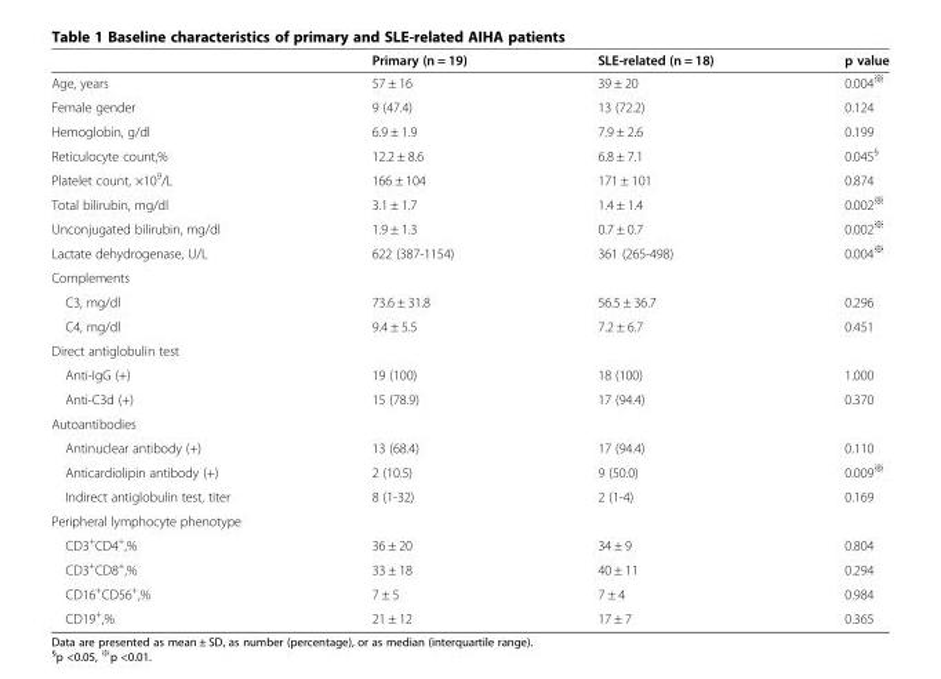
<table><thead><tr><td></td><td>Primary (n = 19)</td><td>SLE-related (n = 18)</td><td>p value</td></tr></thead><tbody><tr><td>Age, years</td><td>57 ± 16</td><td>39 ± 20</td><td>0.004<sup>※</sup></td></tr><tr><td>Female gender</td><td>9 (47.4)</td><td>13 (72.2)</td><td>0.124</td></tr><tr><td>Hemoglobin, g/dl</td><td>6.9 ± 1.9</td><td>7.9 ± 2.6</td><td>0.199</td></tr><tr><td>Reticulocyte count,%</td><td>12.2 ± 8.6</td><td>6.8 ± 7.1</td><td>0.045<sup>§</sup></td></tr><tr><td>Platelet count, ×10<sup>9</sup>/L</td><td>166 ± 104</td><td>171 ± 101</td><td>0.874</td></tr><tr><td>Total bilirubin, mg/dl</td><td>3.1 ± 1.7</td><td>1.4 ± 1.4</td><td>0.002<sup>※</sup></td></tr><tr><td>Unconjugated bilirubin, mg/dl</td><td>1.9 ± 1.3</td><td>0.7 ± 0.7</td><td>0.002<sup>※</sup></td></tr><tr><td>Lactate dehydrogenase, U/L</td><td>622 (387-1154)</td><td>361 (265-498)</td><td>0.004<sup>※</sup></td></tr><tr><td colspan="4">Complements</td></tr><tr><td>C3, mg/dl</td><td>73.6 ± 31.8</td><td>56.5 ± 36.7</td><td>0.296</td></tr><tr><td>C4, mg/dl</td><td>9.4 ± 5.5</td><td>7.2 ± 6.7</td><td>0.451</td></tr><tr><td colspan="4">Direct antiglobulin test</td></tr><tr><td>Anti-IgG (+)</td><td>19 (100)</td><td>18 (100)</td><td>1.000</td></tr><tr><td>Anti-C3d (+)</td><td>15 (78.9)</td><td>17 (94.4)</td><td>0.370</td></tr><tr><td colspan="4">Autoantibodies</td></tr><tr><td>Antinuclear antibody (+)</td><td>13 (68.4)</td><td>17 (94.4)</td><td>0.110</td></tr><tr><td>Anticardiolipin antibody (+)</td><td>2 (10.5)</td><td>9 (50.0)</td><td>0.009<sup>※</sup></td></tr><tr><td>Indirect antiglobulin test, titer</td><td>8 (1-32)</td><td>2 (1-4)</td><td>0.169</td></tr><tr><td colspan="4">Peripheral lymphocyte phenotype</td></tr><tr><td>CD3<sup>+</sup>CD4<sup>+</sup>,%</td><td>36 ± 20</td><td>34 ± 9</td><td>0.804</td></tr><tr><td>CD3<sup>+</sup>CD8<sup>+</sup>,%</td><td>33 ± 18</td><td>40 ± 11</td><td>0.294</td></tr><tr><td>CD16<sup>+</sup>CD56<sup>+</sup>,%</td><td>7 ± 5</td><td>7 ± 4</td><td>0.984</td></tr><tr><td>CD19<sup>+</sup>,%</td><td>21 ± 12</td><td>17 ± 7</td><td>0.365</td></tr></tbody></table>